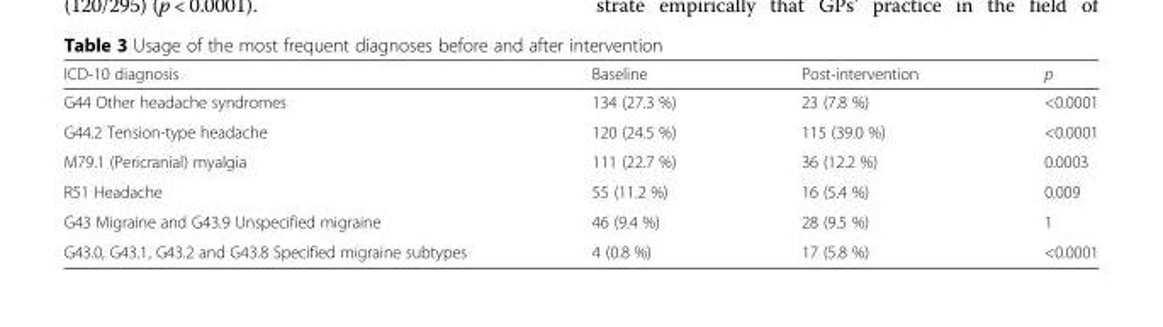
<table><thead><tr><td>ICD-10 diagnosis</td><td>Baseline</td><td>Post-intervention</td><td>p</td></tr></thead><tbody><tr><td>G44 Other headache syndromes</td><td>134 (27.3 %)</td><td>23 (7.8 %)</td><td>&lt;0.0001</td></tr><tr><td>G44.2 Tension-type headache</td><td>120 (24.5 %)</td><td>115 (39.0 %)</td><td>&lt;0.0001</td></tr><tr><td>M79.1 (Pericranial) myalgia</td><td>111 (22.7 %)</td><td>36 (12.2 %)</td><td>0.0003</td></tr><tr><td>R51 Headache</td><td>55 (11.2 %)</td><td>16 (5.4 %)</td><td>0.009</td></tr><tr><td>G43 Migraine and G43.9 Unspecified migraine</td><td>46 (9.4 %)</td><td>28 (9.5 %)</td><td>1</td></tr><tr><td>G43.0, G43.1, G43.2 and G43.8 Specified migraine subtypes</td><td>4 (0.8 %)</td><td>17 (5.8 %)</td><td>&lt;0.0001</td></tr></tbody></table>